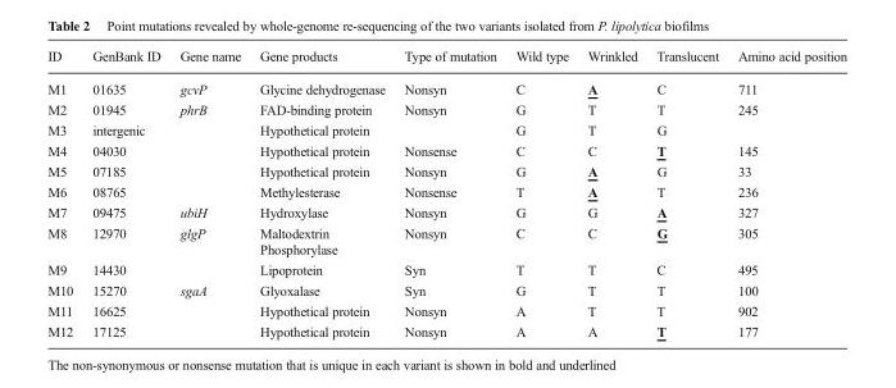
<table><thead><tr><td>ID</td><td>GenBank ID</td><td>Gene name</td><td>Gene products</td><td>Type of mutation</td><td>Wild type</td><td>Wrinkled</td><td>Translucent</td><td>Amino acid position</td></tr></thead><tbody><tr><td>M1</td><td>01635</td><td>gcvP</td><td>Glycine dehydrogenase</td><td>Nonsyn</td><td>C</td><td>A</td><td>C</td><td>711</td></tr><tr><td>M2</td><td>01945</td><td>phrB</td><td>FAD-binding protein</td><td>Nonsyn</td><td>G</td><td>T</td><td>T</td><td>245</td></tr><tr><td>M3</td><td>intergenic</td><td></td><td>Hypothetical protein</td><td></td><td>G</td><td>T</td><td>G</td><td></td></tr><tr><td>M4</td><td>04030</td><td></td><td>Hypothetical protein</td><td>Nonsense</td><td>C</td><td>C</td><td>T</td><td>145</td></tr><tr><td>M5</td><td>07185</td><td></td><td>Hypothetical protein</td><td>Nonsyn</td><td>G</td><td>A</td><td>G</td><td>33</td></tr><tr><td>M6</td><td>08765</td><td></td><td>Methylesterase</td><td>Nonsense</td><td>T</td><td>A</td><td>T</td><td>236</td></tr><tr><td>M7</td><td>09475</td><td>ubiH</td><td>Hydroxylase</td><td>Nonsyn</td><td>G</td><td>G</td><td>A</td><td>327</td></tr><tr><td rowspan="2">M8</td><td rowspan="2">12970</td><td rowspan="2">glgP</td><td>Maltodextrin</td><td rowspan="2">Nonsyn</td><td rowspan="2">C</td><td rowspan="2">C</td><td rowspan="2">G</td><td rowspan="2">305</td></tr><tr><td>Phosphorylase</td></tr><tr><td>M9</td><td>14430</td><td></td><td>Lipoprotein</td><td>Syn</td><td>T</td><td>T</td><td>C</td><td>495</td></tr><tr><td>M10</td><td>15270</td><td>sgaA</td><td>Glyoxalase</td><td>Syn</td><td>G</td><td>T</td><td>T</td><td>100</td></tr><tr><td>M11</td><td>16625</td><td></td><td>Hypothetical protein</td><td>Nonsyn</td><td>A</td><td>T</td><td>T</td><td>902</td></tr><tr><td>M12</td><td>17125</td><td></td><td>Hypothetical protein</td><td>Nonsyn</td><td>A</td><td>A</td><td>T</td><td>177</td></tr></tbody></table>